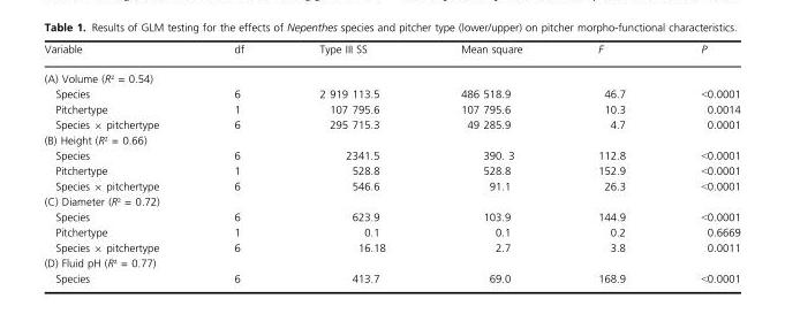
<table><tbody><tr><td>Variable</td><td>df</td><td>Type III SS</td><td>Mean square</td><td>F</td><td>P</td></tr><tr><td colspan="6">(A) Volume (R² = 0.54)</td></tr><tr><td>Species</td><td>6</td><td>2 919 113.5</td><td>486 518.9</td><td>46.7</td><td>&lt;0.0001</td></tr><tr><td>Pitchertype</td><td>1</td><td>107 795.6</td><td>107 795.6</td><td>10.3</td><td>0.0014</td></tr><tr><td>Species × pitchertype</td><td>6</td><td>295 715.3</td><td>49 285.9</td><td>4.7</td><td>0.0001</td></tr><tr><td colspan="6">(B) Height (R² = 0.66)</td></tr><tr><td>Species</td><td>6</td><td>2341.5</td><td>390. 3</td><td>112.8</td><td>&lt;0.0001</td></tr><tr><td>Pitchertype</td><td>1</td><td>528.8</td><td>528.8</td><td>152.9</td><td>&lt;0.0001</td></tr><tr><td>Species × pitchertype</td><td>6</td><td>546.6</td><td>91.1</td><td>26.3</td><td>&lt;0.0001</td></tr><tr><td colspan="6">(C) Diameter (R² = 0.72)</td></tr><tr><td>Species</td><td>6</td><td>623.9</td><td>103.9</td><td>144.9</td><td>&lt;0.0001</td></tr><tr><td>Pitchertype</td><td>1</td><td>0.1</td><td>0.1</td><td>0.2</td><td>0.6669</td></tr><tr><td>Species × pitchertype</td><td>6</td><td>16.18</td><td>2.7</td><td>3.8</td><td>0.0011</td></tr><tr><td colspan="6">(D) Fluid pH (R² = 0.77)</td></tr><tr><td>Species</td><td>6</td><td>413.7</td><td>69.0</td><td>168.9</td><td>&lt;0.0001</td></tr></tbody></table>